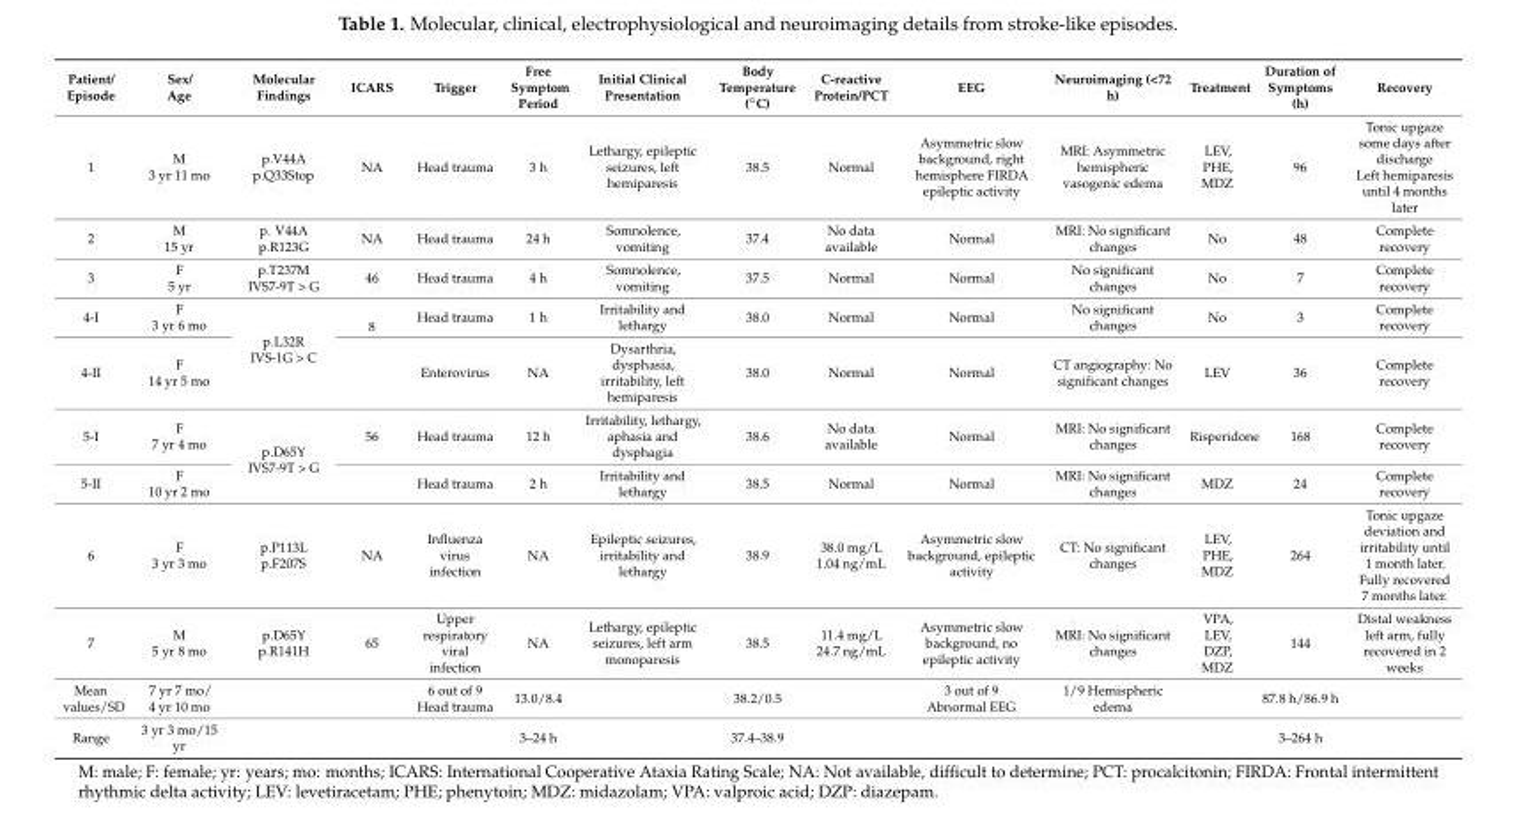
<table><thead><tr><td>Patient/ Episode</td><td>Sex/ Age</td><td>Molecular Findings</td><td>ICARS</td><td>Trigger</td><td>Free Symptom Period</td><td>Initial Clinical Presentation</td><td>Body Temperature (◦C)</td><td>C-reactive Protein/PCT</td><td>EEG</td><td>Neuroimaging (&lt;72 h)</td><td>Treatment</td><td>Duration of Symptoms (h)</td><td>Recovery</td></tr></thead><tbody><tr><td>1</td><td>M 3 yr 11 mo</td><td>p.V44A p.Q33Stop</td><td>NA</td><td>Head trauma</td><td>3 h</td><td>Lethargy, epileptic seizures, left hemiparesis</td><td>38.5</td><td>Normal</td><td>Asymmetric slow background, right hemisphere FIRDA epileptic activity</td><td>MRI: Asymmetric hemispheric vasogenic edema</td><td>LEV, PHE, MDZ</td><td>96</td><td>Tonic upgaze some days after discharge Left hemiparesis until 4 months later</td></tr><tr><td>2</td><td>M 15 yr</td><td>p. V44A p.R123G</td><td>NA</td><td>Head trauma</td><td>24 h</td><td>Somnolence, vomiting</td><td>37.4</td><td>No data available</td><td>Normal</td><td>MRI: No significant changes</td><td>No</td><td>48</td><td>Complete recovery</td></tr><tr><td>3</td><td>F 5 yr</td><td>p.T237M IVS7-9T &gt; G</td><td>46</td><td>Head trauma</td><td>4 h</td><td>Somnolence, vomiting</td><td>37.5</td><td>Normal</td><td>Normal</td><td>No significant changes</td><td>No</td><td>7</td><td>Complete recovery</td></tr><tr><td>4-I</td><td>F 3 yr 6 mo</td><td rowspan="2">p.L32R IVS-1G &gt; C</td><td rowspan="2">8</td><td>Head trauma</td><td>1 h</td><td>Irritability and lethargy</td><td>38.0</td><td>Normal</td><td>Normal</td><td>No significant changes</td><td>No</td><td>3</td><td>Complete recovery</td></tr><tr><td>4-II</td><td>F 14 yr 5 mo</td><td>Enterovirus</td><td>NA</td><td>Dysarthria, dysphasia, irritability, left hemiparesis</td><td>38.0</td><td>Normal</td><td>Normal</td><td>CT angiography: No significant changes</td><td>LEV</td><td>36</td><td>Complete recovery</td></tr><tr><td>5-I</td><td>F 7 yr 4 mo</td><td rowspan="2">p.D65Y IVS7-9T &gt; G</td><td>56</td><td>Head trauma</td><td>12 h</td><td>Irritability, lethargy, aphasia and dysphagia</td><td>38.6</td><td>No data available</td><td>Normal</td><td>MRI: No significant changes</td><td>Risperidone</td><td>168</td><td>Complete recovery</td></tr><tr><td>5-II</td><td>F 10 yr 2 mo</td><td></td><td>Head trauma</td><td>2 h</td><td>Irritability and lethargy</td><td>38.5</td><td>Normal</td><td>Normal</td><td>MRI: No significant changes</td><td>MDZ</td><td>24</td><td>Complete recovery</td></tr><tr><td>6</td><td>F 3 yr 3 mo</td><td>p.P113L p.F207S</td><td>NA</td><td>Influenza virus infection</td><td>NA</td><td>Epileptic seizures, irritability and lethargy</td><td>38.9</td><td>38.0 mg/L 1.04 ng/mL</td><td>Asymmetric slow background, epileptic activity</td><td>CT: No significant changes</td><td>LEV, PHE, MDZ</td><td>264</td><td>Tonic upgaze deviation and irritability until 1 month later. Fully recovered 7 months later.</td></tr><tr><td>7</td><td>M 5 yr 8 mo</td><td>p.D65Y p.R141H</td><td>65</td><td>Upper respiratory viral infection</td><td>NA</td><td>Lethargy, epileptic seizures, left arm monoparesis</td><td>38.5</td><td>11.4 mg/L 24.7 ng/mL</td><td>Asymmetric slow background, no epileptic activity</td><td>MRI: No significant changes</td><td>VPA, LEV, DZP, MDZ</td><td>144</td><td>Distal weakness left arm, fully recovered in 2 weeks</td></tr><tr><td>Mean values/SD</td><td>7 yr 7 mo/ 4 yr 10 mo</td><td></td><td></td><td>6 out of 9 Head trauma</td><td>13.0/8.4</td><td></td><td>38.2/0.5</td><td></td><td>3 out of 9 Abnormal EEG</td><td>1/9 Hemispheric edema</td><td></td><td>87.8 h/86.9 h</td><td></td></tr><tr><td>Range</td><td>3 yr 3 mo/15 yr</td><td></td><td></td><td></td><td>3–24 h</td><td></td><td>37.4–38.9</td><td></td><td></td><td></td><td></td><td>3–264 h</td><td></td></tr></tbody></table>